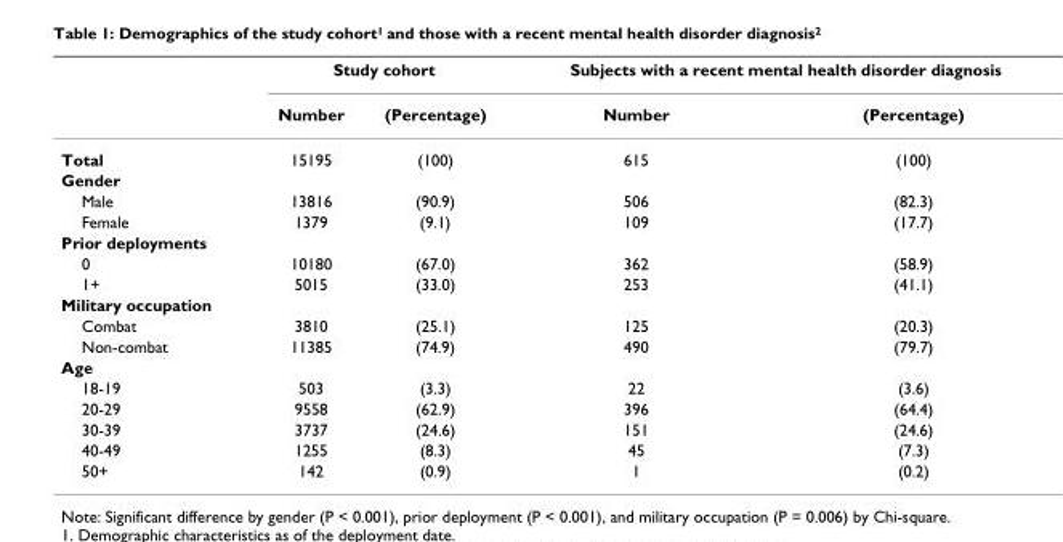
<table><thead><tr><td rowspan="2"></td><td colspan="2">Study cohort</td><td colspan="2">Subjects with a recent mental health disorder diagnosis</td></tr><tr><td>Number</td><td>(Percentage)</td><td>Number</td><td>(Percentage)</td></tr></thead><tbody><tr><td>Total</td><td>15195</td><td>(100)</td><td>615</td><td>(100)</td></tr><tr><td colspan="5">Gender</td></tr><tr><td>Male</td><td>13816</td><td>(90.9)</td><td>506</td><td>(82.3)</td></tr><tr><td>Female</td><td>1379</td><td>(9.1)</td><td>109</td><td>(17.7)</td></tr><tr><td colspan="5">Prior deployments</td></tr><tr><td>0</td><td>10180</td><td>(67.0)</td><td>362</td><td>(58.9)</td></tr><tr><td>1+</td><td>5015</td><td>(33.0)</td><td>253</td><td>(41.1)</td></tr><tr><td colspan="5">Military occupation</td></tr><tr><td>Combat</td><td>3810</td><td>(25.1)</td><td>125</td><td>(20.3)</td></tr><tr><td>Non-combat</td><td>11385</td><td>(74.9)</td><td>490</td><td>(79.7)</td></tr><tr><td colspan="5">Age</td></tr><tr><td>18-19</td><td>503</td><td>(3.3)</td><td>22</td><td>(3.6)</td></tr><tr><td>20-29</td><td>9558</td><td>(62.9)</td><td>396</td><td>(64.4)</td></tr><tr><td>30-39</td><td>3737</td><td>(24.6)</td><td>151</td><td>(24.6)</td></tr><tr><td>40-49</td><td>1255</td><td>(8.3)</td><td>45</td><td>(7.3)</td></tr><tr><td>50+</td><td>142</td><td>(0.9)</td><td>1</td><td>(0.2)</td></tr></tbody></table>